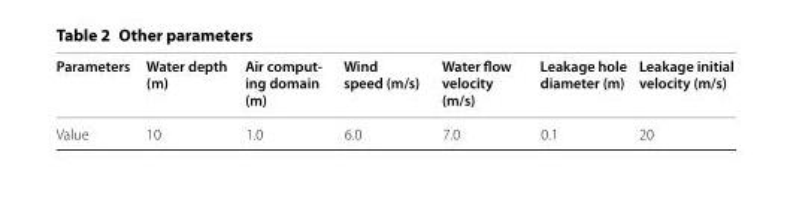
<table><thead><tr><td>Parameters</td><td>Water depth (m)</td><td>Air comput‑ ing domain (m)</td><td>Wind speed (m/s)</td><td>Water flow velocity (m/s)</td><td>Leakage hole diameter (m)</td><td>Leakage initial velocity (m/s)</td></tr></thead><tbody><tr><td>Value</td><td>10</td><td>1.0</td><td>6.0</td><td>7.0</td><td>0.1</td><td>20</td></tr></tbody></table>